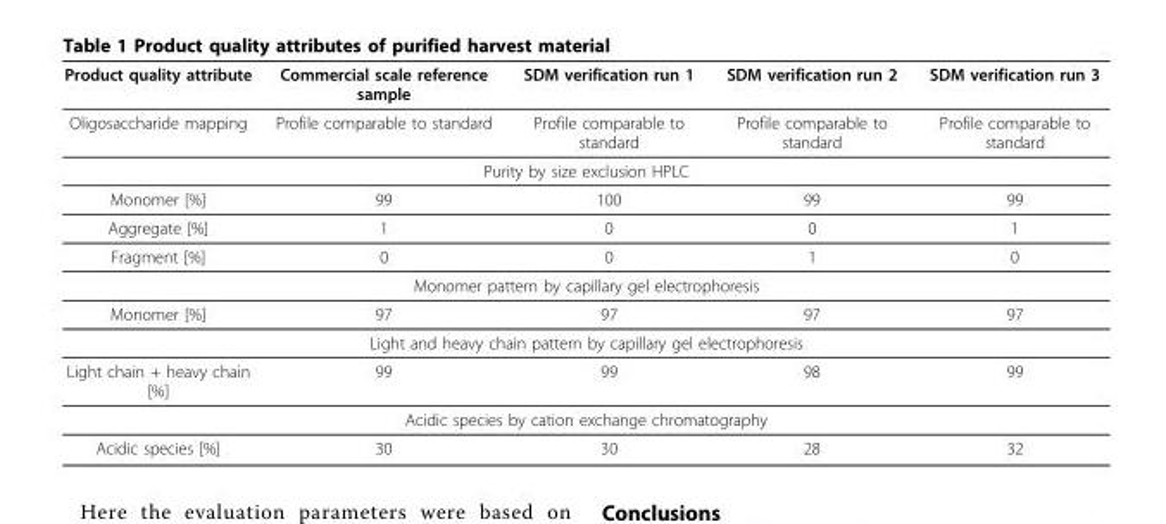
<table><thead><tr><td>Product quality attribute</td><td>Commercial scale reference sample</td><td>SDM verification run 1</td><td>SDM verification run 2</td><td>SDM verification run 3</td></tr></thead><tbody><tr><td>Oligosaccharide mapping</td><td>Profile comparable to standard</td><td>Profile comparable to standard</td><td>Profile comparable to standard</td><td>Profile comparable to standard</td></tr><tr><td colspan="5">Purity by size exclusion HPLC</td></tr><tr><td>Monomer [%]</td><td>99</td><td>100</td><td>99</td><td>99</td></tr><tr><td>Aggregate [%]</td><td>1</td><td>0</td><td>0</td><td>1</td></tr><tr><td>Fragment [%]</td><td>0</td><td>0</td><td>1</td><td>0</td></tr><tr><td colspan="5">Monomer pattern by capillary gel electrophoresis</td></tr><tr><td>Monomer [%]</td><td>97</td><td>97</td><td>97</td><td>97</td></tr><tr><td colspan="5">Light and heavy chain pattern by capillary gel electrophoresis</td></tr><tr><td>Light chain + heavy chain [%]</td><td>99</td><td>99</td><td>98</td><td>99</td></tr><tr><td colspan="5">Acidic species by cation exchange chromatography</td></tr><tr><td>Acidic species [%]</td><td>30</td><td>30</td><td>28</td><td>32</td></tr></tbody></table>